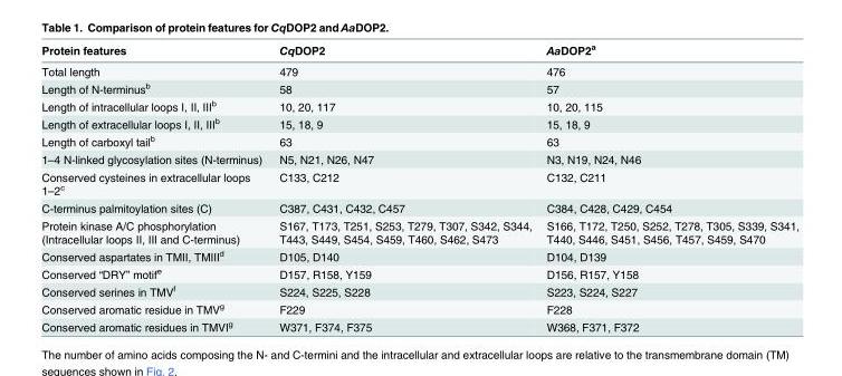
<table><thead><tr><td>Protein features</td><td>CqDOP2</td><td>AaDOP2<sup>a</sup></td></tr></thead><tbody><tr><td>Total length</td><td>479</td><td>476</td></tr><tr><td>Length of N-terminus<sup>b</sup></td><td>58</td><td>57</td></tr><tr><td>Length of intracellular loops I, II, III<sup>b</sup></td><td>10, 20, 117</td><td>10, 20, 115</td></tr><tr><td>Length of extracellular loops I, II, III<sup>b</sup></td><td>15, 18, 9</td><td>15, 18, 9</td></tr><tr><td>Length of carboxyl tail<sup>b</sup></td><td>63</td><td>63</td></tr><tr><td>1–4 N-linked glycosylation sites (N-terminus)</td><td>N5, N21, N26, N47</td><td>N3, N19, N24, N46</td></tr><tr><td>Conserved cysteines in extracellular loops 1–2<sup>c</sup></td><td>C133, C212</td><td>C132, C211</td></tr><tr><td>C-terminus palmitoylation sites (C)</td><td>C387, C431, C432, C457</td><td>C384, C428, C429, C454</td></tr><tr><td>Protein kinase A/C phosphorylation (Intracellular loops II, III and C-terminus)</td><td>S167, T173, T251, S253, T279, T307, S342, S344, T443, S449, S454, S459, T460, S462, S473</td><td>S166, T172, T250, S252, T278, T305, S339, S341, T440, S446, S451, S456, T457, S459, S470</td></tr><tr><td>Conserved aspartates in TMII, TMIII<sup>d</sup></td><td>D105, D140</td><td>D104, D139</td></tr><tr><td>Conserved “DRY” motif<sup>e</sup></td><td>D157, R158, Y159</td><td>D156, R157, Y158</td></tr><tr><td>Conserved serines in TMV<sup>f</sup></td><td>S224, S225, S228</td><td>S223, S224, S227</td></tr><tr><td>Conserved aromatic residue in TMV<sup>g</sup></td><td>F229</td><td>F228</td></tr><tr><td>Conserved aromatic residues in TMVI<sup>g</sup></td><td>W371, F374, F375</td><td>W368, F371, F372</td></tr></tbody></table>